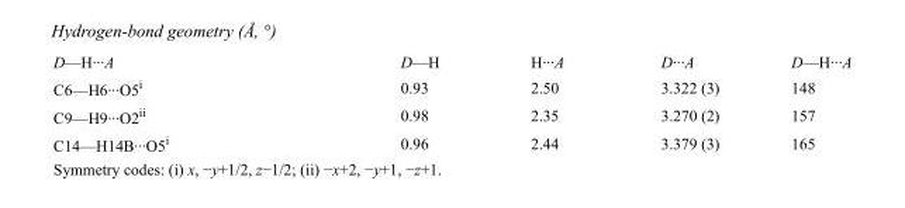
<table><tbody><tr><td>D—H···A</td><td>D—H</td><td>H···A</td><td>D···A</td><td>D—H···A</td></tr><tr><td>C6—H6···O5<sup>i</sup></td><td>0.93</td><td>2.50</td><td>3.322 (3)</td><td>148</td></tr><tr><td>C9—H9···O2<sup>ii</sup></td><td>0.98</td><td>2.35</td><td>3.270 (2)</td><td>157</td></tr><tr><td>C14—H14B···O5<sup>i</sup></td><td>0.96</td><td>2.44</td><td>3.379 (3)</td><td>165</td></tr></tbody></table>